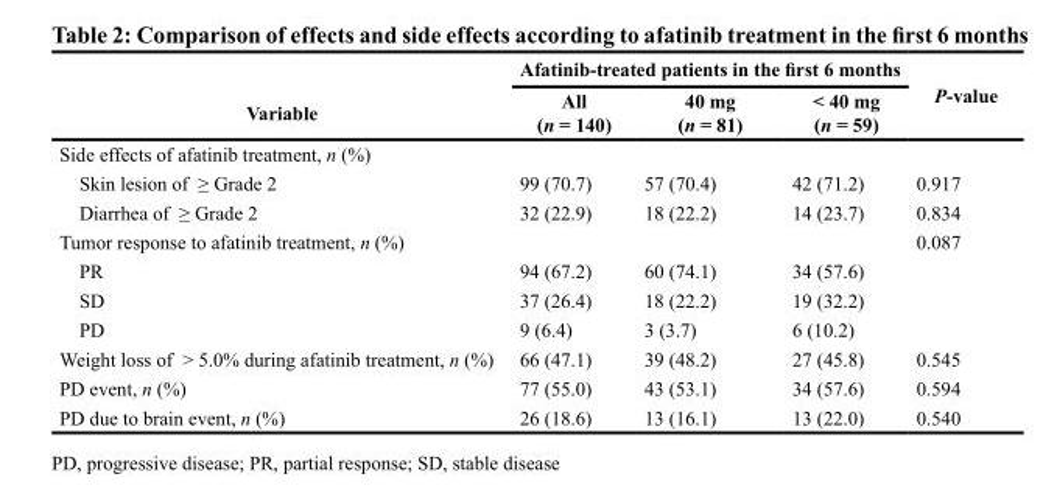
<table><thead><tr><td rowspan="2">Variable</td><td colspan="3">Afatinib-treated patients in the first 6 months</td><td rowspan="2">P-value</td></tr><tr><td>All (n = 140)</td><td>40 mg (n = 81)</td><td>&lt; 40 mg (n = 59)</td></tr></thead><tbody><tr><td colspan="5">Side effects of afatinib treatment, n (%)</td></tr><tr><td>Skin lesion of ≥ Grade 2</td><td>99 (70.7)</td><td>57 (70.4)</td><td>42 (71.2)</td><td>0.917</td></tr><tr><td>Diarrhea of ≥ Grade 2</td><td>32 (22.9)</td><td>18 (22.2)</td><td>14 (23.7)</td><td>0.834</td></tr><tr><td>Tumor response to afatinib treatment, n (%)</td><td></td><td></td><td></td><td>0.087</td></tr><tr><td>PR</td><td>94 (67.2)</td><td>60 (74.1)</td><td>34 (57.6)</td><td></td></tr><tr><td>SD</td><td>37 (26.4)</td><td>18 (22.2)</td><td>19 (32.2)</td><td></td></tr><tr><td>PD</td><td>9 (6.4)</td><td>3 (3.7)</td><td>6 (10.2)</td><td></td></tr><tr><td>Weight loss of &gt; 5.0% during afatinib treatment, n (%)</td><td>66 (47.1)</td><td>39 (48.2)</td><td>27 (45.8)</td><td>0.545</td></tr><tr><td>PD event, n (%)</td><td>77 (55.0)</td><td>43 (53.1)</td><td>34 (57.6)</td><td>0.594</td></tr><tr><td>PD due to brain event, n (%)</td><td>26 (18.6)</td><td>13 (16.1)</td><td>13 (22.0)</td><td>0.540</td></tr></tbody></table>